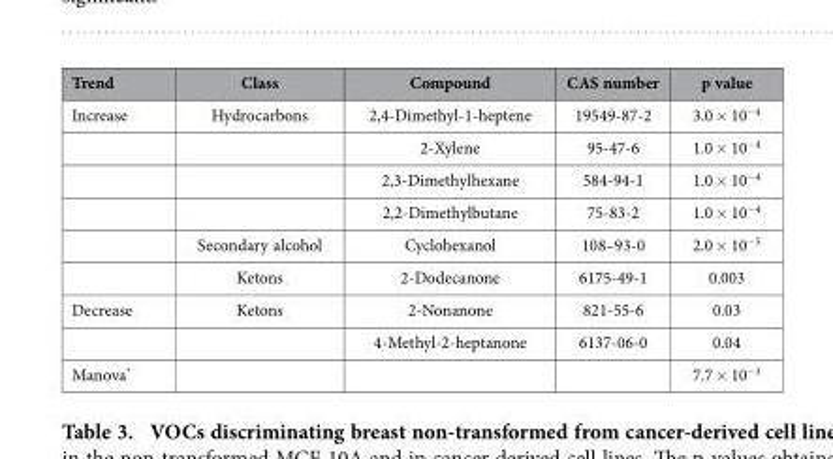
<table><thead><tr><td>Trend</td><td>Class</td><td>Compound</td><td>CAS number</td><td>p value</td></tr></thead><tbody><tr><td rowspan="6">Increase</td><td>Hydrocarbons</td><td>2,4-Dimethyl-1-heptene</td><td>19549-87-2</td><td>3.0 × 10<sup>−4</sup></td></tr><tr><td></td><td>2-Xylene</td><td>95-47-6</td><td>1.0 × 10<sup>−4</sup></td></tr><tr><td></td><td>2,3-Dimethylhexane</td><td>584-94-1</td><td>1.0 × 10<sup>−4</sup></td></tr><tr><td></td><td>2,2-Dimethylbutane</td><td>75-83-2</td><td>1.0 × 10<sup>−4</sup></td></tr><tr><td>Secondary alcohol</td><td>Cyclohexanol</td><td>108–93-0</td><td>2.0 × 10<sup>−5</sup></td></tr><tr><td>Ketons</td><td>2-Dodecanone</td><td>6175-49-1</td><td>0.003</td></tr><tr><td rowspan="2">Decrease</td><td>Ketons</td><td>2-Nonanone</td><td>821-55-6</td><td>0.03</td></tr><tr><td></td><td>4-Methyl-2-heptanone</td><td>6137-06-0</td><td>0.04</td></tr><tr><td>Manova*</td><td></td><td></td><td></td><td>7.7 × 10<sup>−3</sup></td></tr></tbody></table>